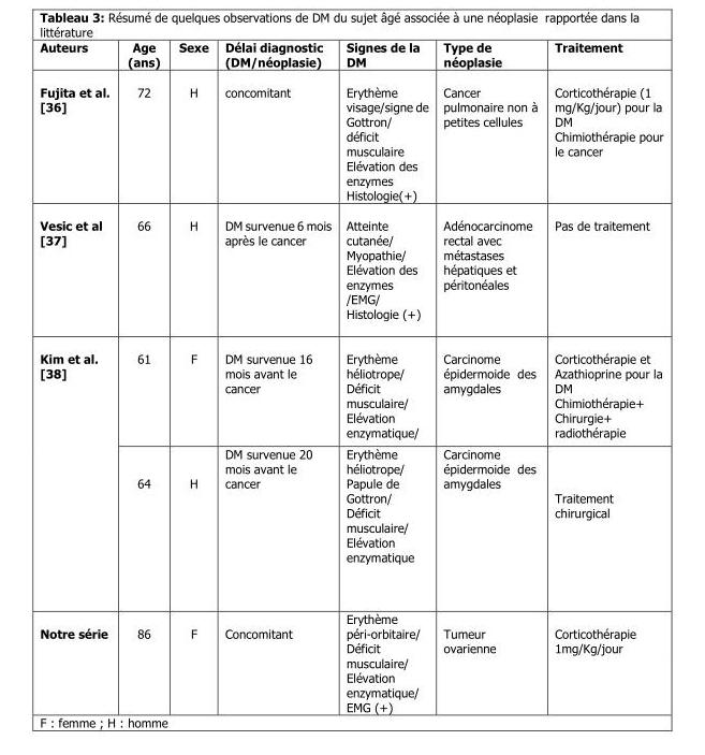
<table><thead><tr><td>Auteurs</td><td>Age (ans)</td><td>Sexe</td><td>Délai diagnostic (DM/néoplasie)</td><td>Signes de la DM</td><td>Type de néoplasie</td><td>Traitement</td></tr></thead><tbody><tr><td>Fujita et al. [36]</td><td>72</td><td>H</td><td>concomitant</td><td>Erythème visage/signe de Gottron/ déficit musculaire Elévation des enzymes Histologie(+)</td><td>Cancer pulmonaire non à petites cellules</td><td>Corticothérapie (1 mg/Kg/jour) pour la DM Chimiothérapie pour le cancer</td></tr><tr><td>Vesic et al [37]</td><td>66</td><td>H</td><td>DM survenue 6 mois après le cancer</td><td>Atteinte cutanée/ Myopathie/ Elévation des enzymes /EMG/ Histologie (+)</td><td>Adénocarcinome rectal avec métastases hépatiques et péritonéales</td><td>Pas de traitement</td></tr><tr><td rowspan="2">Kim et al. [38]</td><td>61</td><td>F</td><td>DM survenue 16 mois avant le cancer</td><td>Erythème héliotrope/ Déficit musculaire/ Elévation enzymatique/</td><td>Carcinome épidermoide des amygdales</td><td>Corticothérapie et Azathioprine pour la DM Chimiothérapie+ Chirurgie+ radiothérapie</td></tr><tr><td>64</td><td>H</td><td>DM survenue 20 mois avant le cancer</td><td>Erythème héliotrope/ Papule de Gottron/ Déficit musculaire/ Elévation enzymatique</td><td>Carcinome épidermoide des amygdales</td><td>Traitement chirurgical</td></tr><tr><td>Notre série</td><td>86</td><td>F</td><td>Concomitant</td><td>Erythème péri-orbitaire/ Déficit musculaire/ Elévation enzymatique/ EMG (+)</td><td>Tumeur ovarienne</td><td>Corticothérapie 1mg/Kg/jour</td></tr></tbody></table>